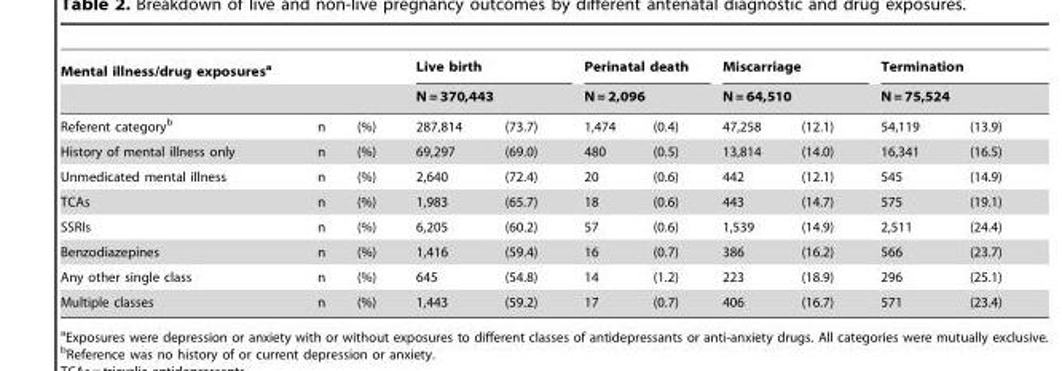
<table><thead><tr><td colspan="2">Mental illness/drug exposures<sup>a</sup></td><td rowspan="3">(%)</td><td rowspan="2" colspan="2">Live birth N = 370,443</td><td rowspan="2" colspan="2">Perinatal death N = 2,096</td><td rowspan="2" colspan="2">Miscarriage N = 64,510</td><td rowspan="2" colspan="2">Termination N = 75,524</td></tr><tr><td rowspan="2">Referent category<sup>b</sup></td><td rowspan="2">n</td></tr><tr><td>287,814</td><td>(73.7)</td><td>1,474</td><td>(0.4)</td><td>47,258</td><td>(12.1)</td><td>54,119</td><td>(13.9)</td></tr></thead><tbody><tr><td>History of mental illness only</td><td>n</td><td>(%)</td><td>69,297</td><td>(69.0)</td><td>480</td><td>(0.5)</td><td>13,814</td><td>(14.0)</td><td>16,341</td><td>(16.5)</td></tr><tr><td>Unmedicated mental illness</td><td>n</td><td>(%)</td><td>2,640</td><td>(72.4)</td><td>20</td><td>(0.6)</td><td>442</td><td>(12.1)</td><td>545</td><td>(14.9)</td></tr><tr><td>TCAs</td><td>n</td><td>(%)</td><td>1,983</td><td>(65.7)</td><td>18</td><td>(0.6)</td><td>443</td><td>(14.7)</td><td>575</td><td>(19.1)</td></tr><tr><td>SSRIs</td><td>n</td><td>(%)</td><td>6,205</td><td>(60.2)</td><td>57</td><td>(0.6)</td><td>1,539</td><td>(14.9)</td><td>2,511</td><td>(24.4)</td></tr><tr><td>Benzodiazepines</td><td>n</td><td>(%)</td><td>1,416</td><td>(59.4)</td><td>16</td><td>(0.7)</td><td>386</td><td>(16.2)</td><td>566</td><td>(23.7)</td></tr><tr><td>Any other single class</td><td>n</td><td>(%)</td><td>645</td><td>(54.8)</td><td>14</td><td>(1.2)</td><td>223</td><td>(18.9)</td><td>296</td><td>(25.1)</td></tr><tr><td>Multiple classes</td><td>n</td><td>(%)</td><td>1,443</td><td>(59.2)</td><td>17</td><td>(0.7)</td><td>406</td><td>(16.7)</td><td>571</td><td>(23.4)</td></tr></tbody></table>